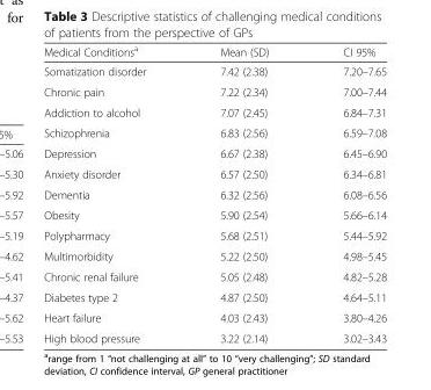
<table><thead><tr><td>Medical Conditions<sup>a</sup></td><td>Mean (SD)</td><td>CI 95%</td></tr></thead><tbody><tr><td>Somatization disorder</td><td>7.42 (2.38)</td><td>7.20–7.65</td></tr><tr><td>Chronic pain</td><td>7.22 (2.34)</td><td>7.00–7.44</td></tr><tr><td>Addiction to alcohol</td><td>7.07 (2.45)</td><td>6.84–7.31</td></tr><tr><td>Schizophrenia</td><td>6.83 (2.56)</td><td>6.59–7.08</td></tr><tr><td>Depression</td><td>6.67 (2.38)</td><td>6.45–6.90</td></tr><tr><td>Anxiety disorder</td><td>6.57 (2.50)</td><td>6.34–6.81</td></tr><tr><td>Dementia</td><td>6.32 (2.56)</td><td>6.08–6.56</td></tr><tr><td>Obesity</td><td>5.90 (2.54)</td><td>5.66–6.14</td></tr><tr><td>Polypharmacy</td><td>5.68 (2.51)</td><td>5.44–5.92</td></tr><tr><td>Multimorbidity</td><td>5.22 (2.50)</td><td>4.98–5.45</td></tr><tr><td>Chronic renal failure</td><td>5.05 (2.48)</td><td>4.82–5.28</td></tr><tr><td>Diabetes type 2</td><td>4.87 (2.50)</td><td>4.64–5.11</td></tr><tr><td>Heart failure</td><td>4.03 (2.43)</td><td>3.80–4.26</td></tr><tr><td>High blood pressure</td><td>3.22 (2.14)</td><td>3.02–3.43</td></tr></tbody></table>